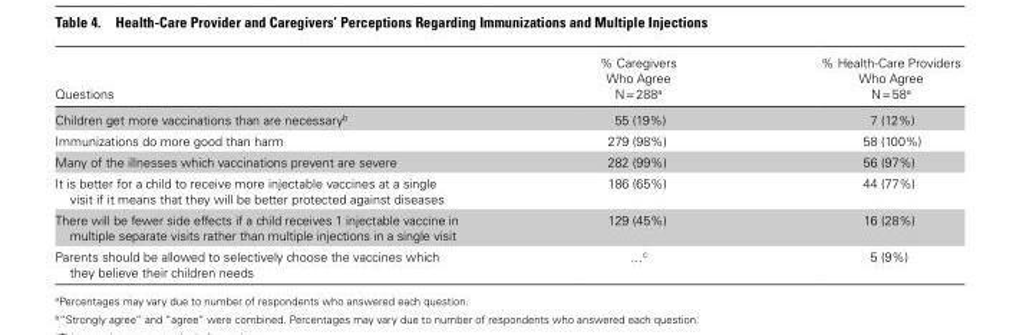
<table><thead><tr><td>Questions</td><td>% Caregivers Who Agree N = 288<sup>a</sup></td><td>% Health-Care Providers Who Agree N = 58<sup>a</sup></td></tr></thead><tbody><tr><td>Children get more vaccinations than are necessary<sup>b</sup></td><td>55 (19%)</td><td>7 (12%)</td></tr><tr><td>Immunizations do more good than harm</td><td>279 (98%)</td><td>58 (100%)</td></tr><tr><td>Many of the illnesses which vaccinations prevent are severe</td><td>282 (99%)</td><td>56 (97%)</td></tr><tr><td>It is better for a child to receive more injectable vaccines at a single visit if it means that they will be better protected against diseases</td><td>186 (65%)</td><td>44 (77%)</td></tr><tr><td>There will be fewer side effects if a child receives 1 injectable vaccine in multiple separate visits rather than multiple injections in a single visit</td><td>129 (45%)</td><td>16 (28%)</td></tr><tr><td>Parents should be allowed to selectively choose the vaccines which they believe their children needs</td><td>…<sup>c</sup></td><td>5 (9%)</td></tr></tbody></table>